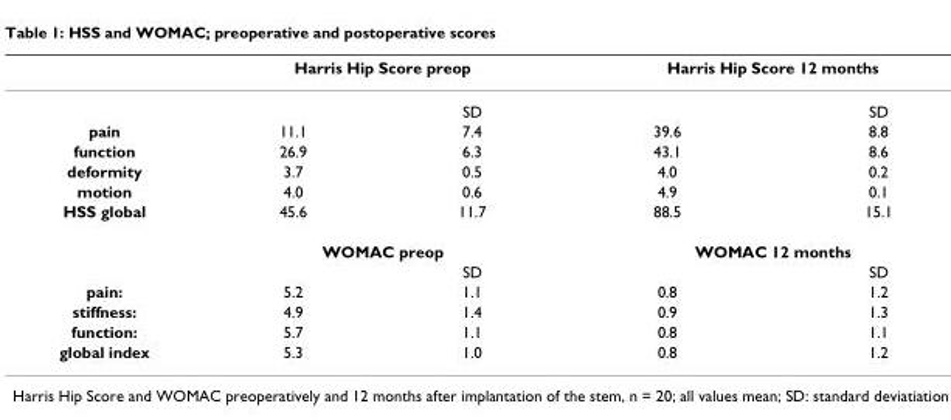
<table><thead><tr><td rowspan="2"></td><td colspan="2">Harris Hip Score preop</td><td colspan="2">Harris Hip Score 12 months</td></tr><tr><td></td><td>SD</td><td></td><td>SD</td></tr></thead><tbody><tr><td>pain</td><td>11.1</td><td>7.4</td><td>39.6</td><td>8.8</td></tr><tr><td>function</td><td>26.9</td><td>6.3</td><td>43.1</td><td>8.6</td></tr><tr><td>deformity</td><td>3.7</td><td>0.5</td><td>4.0</td><td>0.2</td></tr><tr><td>motion</td><td>4.0</td><td>0.6</td><td>4.9</td><td>0.1</td></tr><tr><td rowspan="3">HSS global</td><td>45.6</td><td>11.7</td><td>88.5</td><td>15.1</td></tr><tr><td colspan="2">WOMAC preop</td><td colspan="2">WOMAC 12 months</td></tr><tr><td></td><td>SD</td><td></td><td>SD</td></tr><tr><td>pain:</td><td>5.2</td><td>1.1</td><td>0.8</td><td>1.2</td></tr><tr><td>stiffness:</td><td>4.9</td><td>1.4</td><td>0.9</td><td>1.3</td></tr><tr><td>function:</td><td>5.7</td><td>1.1</td><td>0.8</td><td>1.1</td></tr><tr><td>global index</td><td>5.3</td><td>1.0</td><td>0.8</td><td>1.2</td></tr></tbody></table>